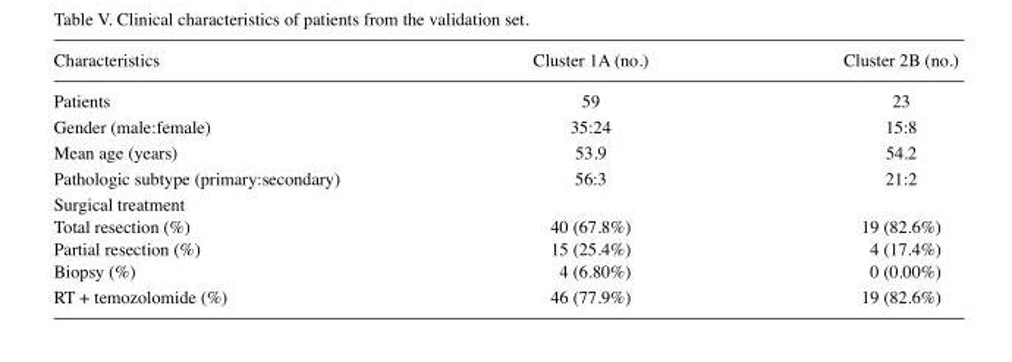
<table><thead><tr><td>Characteristics</td><td>Cluster 1A (no.)</td><td>Cluster 2B (no.)</td></tr></thead><tbody><tr><td>Patients</td><td>59</td><td>23</td></tr><tr><td>Gender (male:female)</td><td>35:24</td><td>15:8</td></tr><tr><td>Mean age (years)</td><td>53.9</td><td>54.2</td></tr><tr><td>Pathologic subtype (primary:secondary)</td><td>56:3</td><td>21:2</td></tr><tr><td colspan="3">Surgical treatment</td></tr><tr><td>Total resection (%)</td><td>40 (67.8%)</td><td>19 (82.6%)</td></tr><tr><td>Partial resection (%)</td><td>15 (25.4%)</td><td>4 (17.4%)</td></tr><tr><td>Biopsy (%)</td><td>4 (6.80%)</td><td>0 (0.00%)</td></tr><tr><td>RT + temozolomide (%)</td><td>46 (77.9%)</td><td>19 (82.6%)</td></tr></tbody></table>